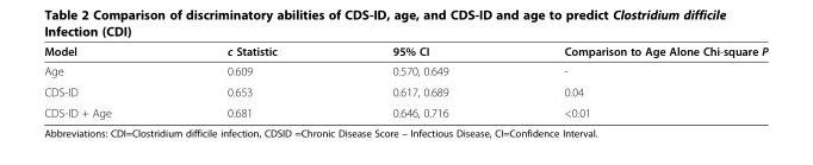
<table><thead><tr><td>Model</td><td>c Statistic</td><td>95% CI</td><td>Comparison to Age Alone Chi-square P</td></tr></thead><tbody><tr><td>Age</td><td>0.609</td><td>0.570, 0.649</td><td>-</td></tr><tr><td>CDS-ID</td><td>0.653</td><td>0.617, 0.689</td><td>0.04</td></tr><tr><td>CDS-ID + Age</td><td>0.681</td><td>0.646, 0.716</td><td>&lt;0.01</td></tr></tbody></table>